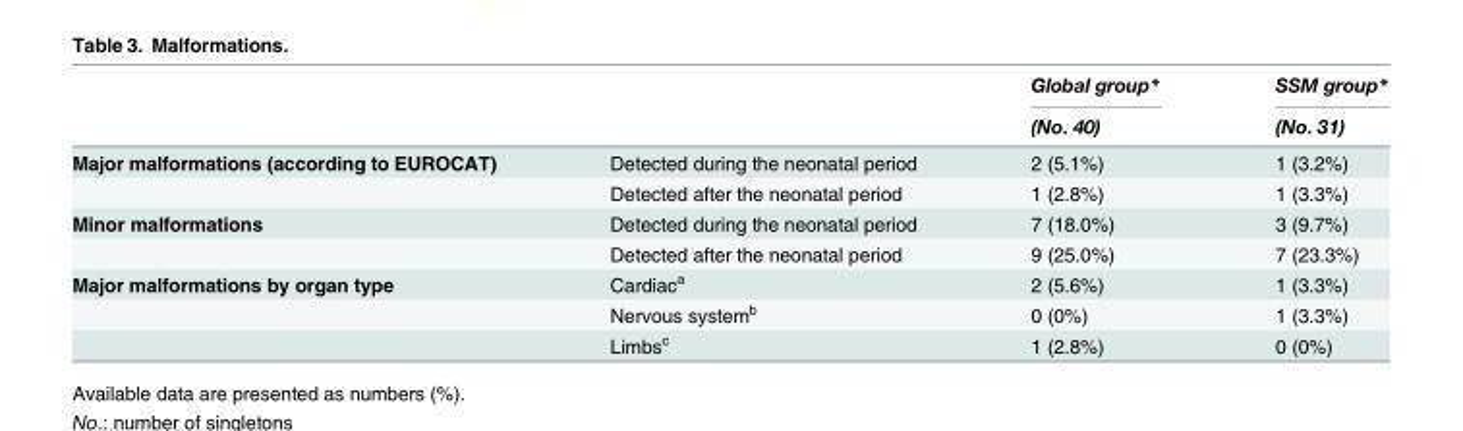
<table><thead><tr><td rowspan="2"></td><td rowspan="2"></td><td rowspan="2">Global group* (No. 40)</td><td rowspan="2">SSM group* (No. 31)</td></tr><tr></tr></thead><tbody><tr><td rowspan="2">Major malformations (according to EUROCAT)</td><td>Detected during the neonatal period</td><td>2 (5.1%)</td><td>1 (3.2%)</td></tr><tr><td>Detected after the neonatal period</td><td>1 (2.8%)</td><td>1 (3.3%)</td></tr><tr><td rowspan="2">Minor malformations</td><td>Detected during the neonatal period</td><td>7 (18.0%)</td><td>3 (9.7%)</td></tr><tr><td>Detected after the neonatal period</td><td>9 (25.0%)</td><td>7 (23.3%)</td></tr><tr><td rowspan="3">Major malformations by organ type</td><td>Cardiac<sup>a</sup></td><td>2 (5.6%)</td><td>1 (3.3%)</td></tr><tr><td>Nervous system<sup>b</sup></td><td>0 (0%)</td><td>1 (3.3%)</td></tr><tr><td>Limbs<sup>c</sup></td><td>1 (2.8%)</td><td>0 (0%)</td></tr></tbody></table>